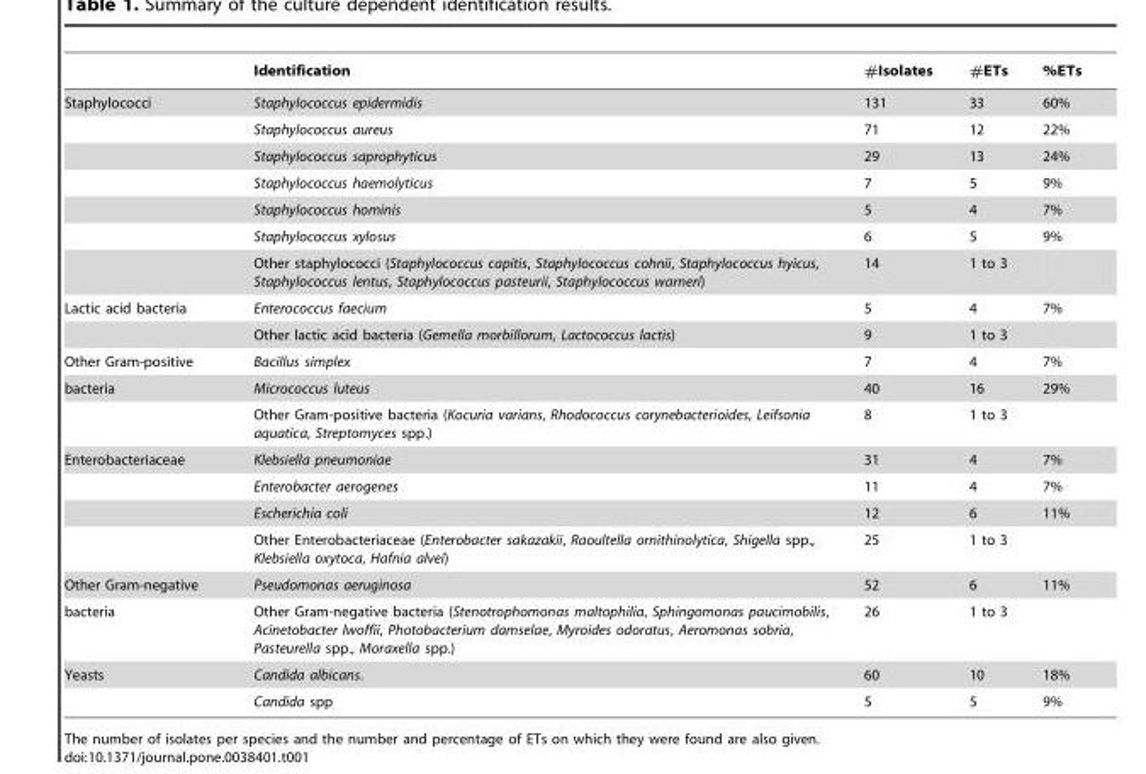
<table><thead><tr><td></td><td>Identification</td><td>#Isolates</td><td>#ETs</td><td>%ETs</td></tr></thead><tbody><tr><td rowspan="7">Staphylococci</td><td>Staphylococcus epidermidis</td><td>131</td><td>33</td><td>60%</td></tr><tr><td>Staphylococcus aureus</td><td>71</td><td>12</td><td>22%</td></tr><tr><td>Staphylococcus saprophyticus</td><td>29</td><td>13</td><td>24%</td></tr><tr><td>Staphylococcus haemolyticus</td><td>7</td><td>5</td><td>9%</td></tr><tr><td>Staphylococcus hominis</td><td>5</td><td>4</td><td>7%</td></tr><tr><td>Staphylococcus xylosus</td><td>6</td><td>5</td><td>9%</td></tr><tr><td>Other staphylococci (Staphylococcus capitis, Staphylococcus cohnii, Staphylococcus hyicus, Staphylococcus lentus, Staphylococcus pasteurii, Staphylococcus warneri)</td><td>14</td><td>1 to 3</td><td></td></tr><tr><td rowspan="2">Lactic acid bacteria</td><td>Enterococcus faecium</td><td>5</td><td>4</td><td>7%</td></tr><tr><td>Other lactic acid bacteria (Gemella morbillorum, Lactococcus lactis)</td><td>9</td><td>1 to 3</td><td></td></tr><tr><td>Other Gram-positive</td><td>Bacillus simplex</td><td>7</td><td>4</td><td>7%</td></tr><tr><td rowspan="2">bacteria</td><td>Micrococcus luteus</td><td>40</td><td>16</td><td>29%</td></tr><tr><td>Other Gram-positive bacteria (Kocuria varians, Rhodococcus corynebacterioides, Leifsonia aquatica, Streptomyces spp.)</td><td>8</td><td>1 to 3</td><td></td></tr><tr><td rowspan="4">Enterobacteriaceae</td><td>Klebsiella pneumoniae</td><td>31</td><td>4</td><td>7%</td></tr><tr><td>Enterobacter aerogenes</td><td>11</td><td>4</td><td>7%</td></tr><tr><td>Escherichia coli</td><td>12</td><td>6</td><td>11%</td></tr><tr><td>Other Enterobacteriaceae (Enterobacter sakazakii, Raoultella ornithinolytica, Shigella spp., Klebsiella oxytoca, Hafnia alvei)</td><td>25</td><td>1 to 3</td><td></td></tr><tr><td>Other Gram-negative</td><td>Pseudomonas aeruginosa</td><td>52</td><td>6</td><td>11%</td></tr><tr><td>bacteria</td><td>Other Gram-negative bacteria (Stenotrophomonas maltophilia, Sphingomonas paucimobilis, Acinetobacter lwoffii, Photobacterium damselae, Myroides odoratus, Aeromonas sobria, Pasteurella spp., Moraxella spp.)</td><td>26</td><td>1 to 3</td><td></td></tr><tr><td rowspan="2">Yeasts</td><td>Candida albicans.</td><td>60</td><td>10</td><td>18%</td></tr><tr><td>Candida spp</td><td>5</td><td>5</td><td>9%</td></tr></tbody></table>